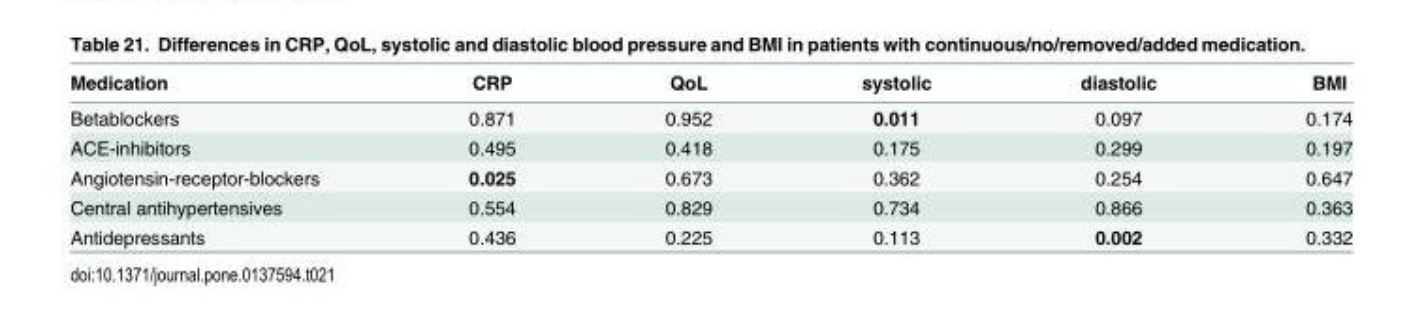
<table><thead><tr><td>Medication</td><td>CRP</td><td>QoL</td><td>systolic</td><td>diastolic</td><td>BMI</td></tr></thead><tbody><tr><td>Betablockers</td><td>0.871</td><td>0.952</td><td>0.011</td><td>0.097</td><td>0.174</td></tr><tr><td>ACE-inhibitors</td><td>0.495</td><td>0.418</td><td>0.175</td><td>0.299</td><td>0.197</td></tr><tr><td>Angiotensin-receptor-blockers</td><td>0.025</td><td>0.673</td><td>0.362</td><td>0.254</td><td>0.647</td></tr><tr><td>Central antihypertensives</td><td>0.554</td><td>0.829</td><td>0.734</td><td>0.866</td><td>0.363</td></tr><tr><td>Antidepressants</td><td>0.436</td><td>0.225</td><td>0.113</td><td>0.002</td><td>0.332</td></tr></tbody></table>